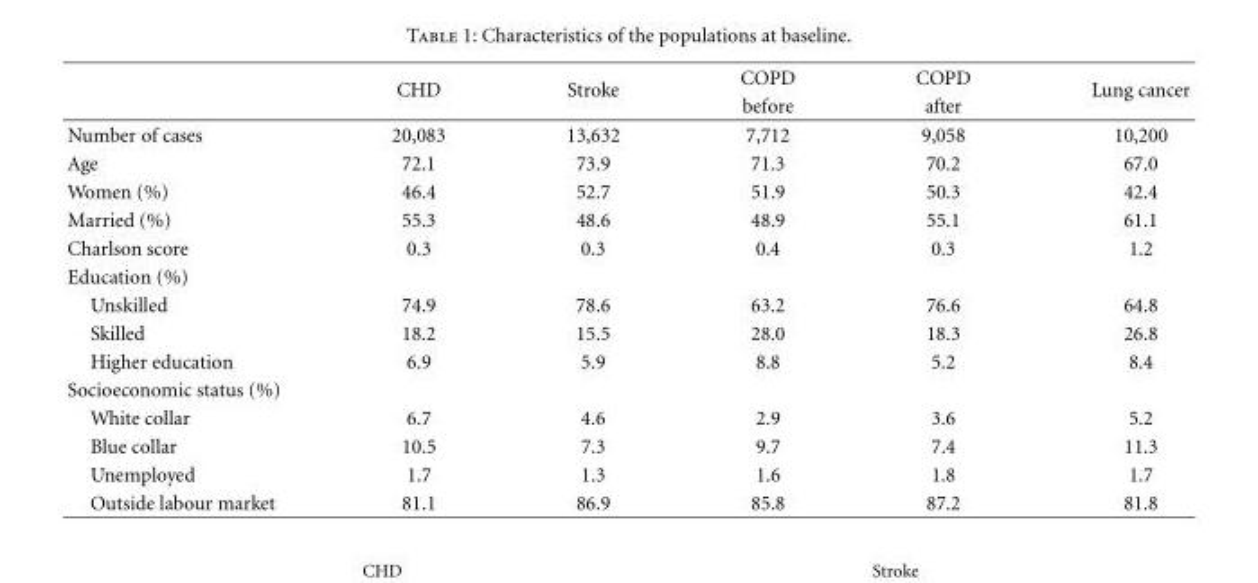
<table><thead><tr><td rowspan="2"></td><td rowspan="2">CHD</td><td rowspan="2">Stroke</td><td rowspan="2">COPD before</td><td rowspan="2">COPD after</td><td rowspan="2">Lung cancer</td></tr><tr></tr></thead><tbody><tr><td>Number of cases</td><td>20,083</td><td>13,632</td><td>7,712</td><td>9,058</td><td>10,200</td></tr><tr><td>Age</td><td>72.1</td><td>73.9</td><td>71.3</td><td>70.2</td><td>67.0</td></tr><tr><td>Women (%)</td><td>46.4</td><td>52.7</td><td>51.9</td><td>50.3</td><td>42.4</td></tr><tr><td>Married (%)</td><td>55.3</td><td>48.6</td><td>48.9</td><td>55.1</td><td>61.1</td></tr><tr><td>Charlson score</td><td>0.3</td><td>0.3</td><td>0.4</td><td>0.3</td><td>1.2</td></tr><tr><td colspan="6">Education (%)</td></tr><tr><td>Unskilled</td><td>74.9</td><td>78.6</td><td>63.2</td><td>76.6</td><td>64.8</td></tr><tr><td>Skilled</td><td>18.2</td><td>15.5</td><td>28.0</td><td>18.3</td><td>26.8</td></tr><tr><td>Higher education</td><td>6.9</td><td>5.9</td><td>8.8</td><td>5.2</td><td>8.4</td></tr><tr><td colspan="6">Socioeconomic status (%)</td></tr><tr><td>White collar</td><td>6.7</td><td>4.6</td><td>2.9</td><td>3.6</td><td>5.2</td></tr><tr><td>Blue collar</td><td>10.5</td><td>7.3</td><td>9.7</td><td>7.4</td><td>11.3</td></tr><tr><td>Unemployed</td><td>1.7</td><td>1.3</td><td>1.6</td><td>1.8</td><td>1.7</td></tr><tr><td>Outside labour market</td><td>81.1</td><td>86.9</td><td>85.8</td><td>87.2</td><td>81.8</td></tr></tbody></table>